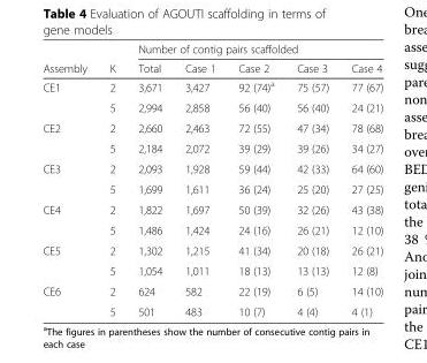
<table><thead><tr><td rowspan="2">Assembly</td><td rowspan="2">K</td><td colspan="5">Number of contig pairs scaffolded</td></tr><tr><td>Total</td><td>Case 1</td><td>Case 2</td><td>Case 3</td><td>Case 4</td></tr></thead><tbody><tr><td rowspan="2">CE1</td><td>2</td><td>3,671</td><td>3,427</td><td>92 (74)<sup>a</sup></td><td>75 (57)</td><td>77 (67)</td></tr><tr><td>5</td><td>2,994</td><td>2,858</td><td>56 (40)</td><td>56 (40)</td><td>24 (21)</td></tr><tr><td rowspan="2">CE2</td><td>2</td><td>2,660</td><td>2,463</td><td>72 (55)</td><td>47 (34)</td><td>78 (68)</td></tr><tr><td>5</td><td>2,184</td><td>2,072</td><td>39 (29)</td><td>39 (26)</td><td>34 (27)</td></tr><tr><td rowspan="2">CE3</td><td>2</td><td>2,093</td><td>1,928</td><td>59 (44)</td><td>42 (33)</td><td>64 (60)</td></tr><tr><td>5</td><td>1,699</td><td>1,611</td><td>36 (24)</td><td>25 (20)</td><td>27 (25)</td></tr><tr><td rowspan="2">CE4</td><td>2</td><td>1,822</td><td>1,697</td><td>50 (39)</td><td>32 (26)</td><td>43 (38)</td></tr><tr><td>5</td><td>1,486</td><td>1,424</td><td>24 (16)</td><td>26 (21)</td><td>12 (10)</td></tr><tr><td rowspan="2">CE5</td><td>2</td><td>1,302</td><td>1,215</td><td>41 (34)</td><td>20 (18)</td><td>26 (21)</td></tr><tr><td>5</td><td>1,054</td><td>1,011</td><td>18 (13)</td><td>13 (13)</td><td>12 (8)</td></tr><tr><td rowspan="2">CE6</td><td>2</td><td>624</td><td>582</td><td>22 (19)</td><td>6 (5)</td><td>14 (10)</td></tr><tr><td>5</td><td>501</td><td>483</td><td>10 (7)</td><td>4 (4)</td><td>4 (1)</td></tr></tbody></table>